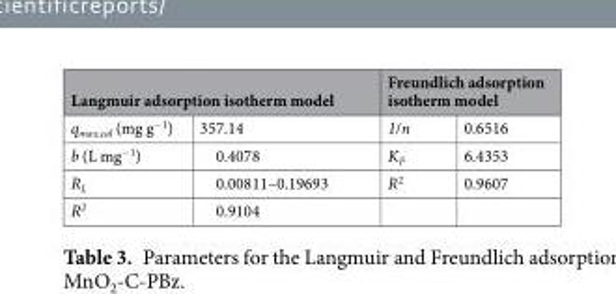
<table><thead><tr><td colspan="2">Langmuir adsorption isotherm model</td><td colspan="2">Freundlich adsorption isotherm model</td></tr><tr><td>q<sub>max,cal</sub> (mg g<sup>−1</sup>)</td><td>357.14</td><td>1/n</td><td>0.6516</td></tr></thead><tbody><tr><td>b (L mg<sup>−1</sup>)</td><td>0.4078</td><td>K<sub>F</sub></td><td>6.4353</td></tr><tr><td>R<sub>L</sub></td><td>0.00811–0.19693</td><td>R<sup>2</sup></td><td>0.9607</td></tr><tr><td>R<sup>2</sup></td><td>0.9104</td><td></td><td></td></tr></tbody></table>